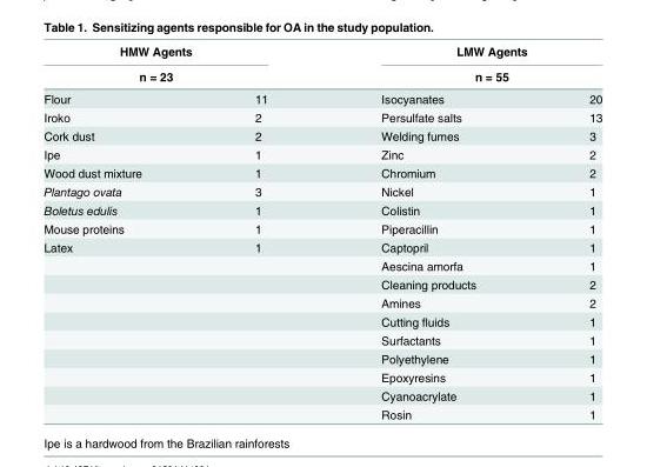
<table><thead><tr><td rowspan="2" colspan="2">HMW Agents n = 23</td><td rowspan="2" colspan="2">LMW Agents n = 55</td></tr><tr></tr><tr><td>Flour</td><td>11</td><td>Isocyanates</td><td>20</td></tr></thead><tbody><tr><td>Iroko</td><td>2</td><td>Persulfate salts</td><td>13</td></tr><tr><td>Cork dust</td><td>2</td><td>Welding fumes</td><td>3</td></tr><tr><td>Ipe</td><td>1</td><td>Zinc</td><td>2</td></tr><tr><td>Wood dust mixture</td><td>1</td><td>Chromium</td><td>2</td></tr><tr><td>Plantago ovata</td><td>3</td><td>Nickel</td><td>1</td></tr><tr><td>Boletus edulis</td><td>1</td><td>Colistin</td><td>1</td></tr><tr><td>Mouse proteins</td><td>1</td><td>Piperacillin</td><td>1</td></tr><tr><td rowspan="10">Latex</td><td>1</td><td>Captopril</td><td>1</td></tr><tr><td></td><td>Aescina amorfa</td><td>1</td></tr><tr><td></td><td>Cleaning products</td><td>2</td></tr><tr><td></td><td>Amines</td><td>2</td></tr><tr><td></td><td>Cutting fluids</td><td>1</td></tr><tr><td></td><td>Surfactants</td><td>1</td></tr><tr><td></td><td>Polyethylene</td><td>1</td></tr><tr><td></td><td>Epoxyresins</td><td>1</td></tr><tr><td></td><td>Cyanoacrylate</td><td>1</td></tr><tr><td></td><td>Rosin</td><td>1</td></tr></tbody></table>